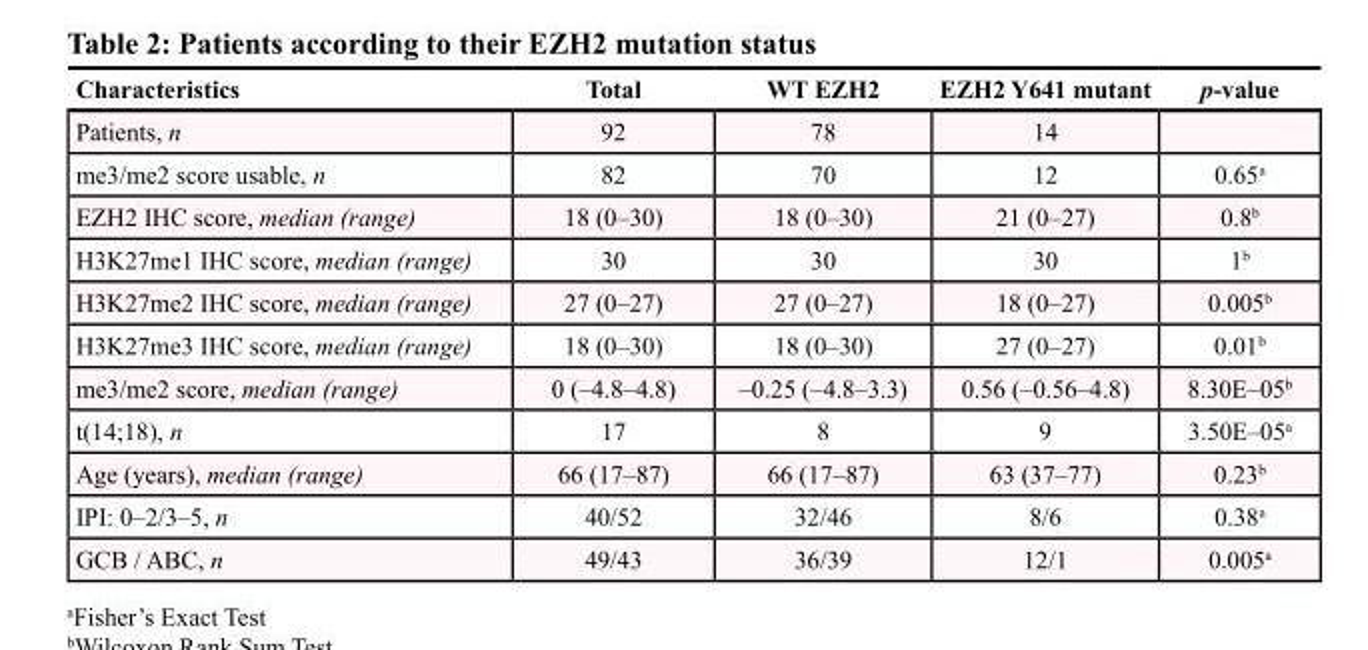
<table><thead><tr><td>Characteristics</td><td>Total</td><td>WT EZH2</td><td>EZH2 Y641 mutant</td><td>p-value</td></tr></thead><tbody><tr><td>Patients, n</td><td>92</td><td>78</td><td>14</td><td></td></tr><tr><td>me3/me2 score usable, n</td><td>82</td><td>70</td><td>12</td><td>0.65<sup>a</sup></td></tr><tr><td>EZH2 IHC score, median (range)</td><td>18 (0–30)</td><td>18 (0–30)</td><td>21 (0–27)</td><td>0.8<sup>b</sup></td></tr><tr><td>H3K27me1 IHC score, median (range)</td><td>30</td><td>30</td><td>30</td><td>1<sup>b</sup></td></tr><tr><td>H3K27me2 IHC score, median (range)</td><td>27 (0–27)</td><td>27 (0–27)</td><td>18 (0–27)</td><td>0.005<sup>b</sup></td></tr><tr><td>H3K27me3 IHC score, median (range)</td><td>18 (0–30)</td><td>18 (0–30)</td><td>27 (0–27)</td><td>0.01<sup>b</sup></td></tr><tr><td>me3/me2 score, median (range)</td><td>0 (–4.8–4.8)</td><td>–0.25 (–4.8–3.3)</td><td>0.56 (–0.56–4.8)</td><td>8.30E–05<sup>b</sup></td></tr><tr><td>t(14;18), n</td><td>17</td><td>8</td><td>9</td><td>3.50E–05<sup>a</sup></td></tr><tr><td>Age (years), median (range)</td><td>66 (17–87)</td><td>66 (17–87)</td><td>63 (37–77)</td><td>0.23<sup>b</sup></td></tr><tr><td>IPI: 0–2/3–5, n</td><td>40/52</td><td>32/46</td><td>8/6</td><td>0.38<sup>a</sup></td></tr><tr><td>GCB / ABC, n</td><td>49/43</td><td>36/39</td><td>12/1</td><td>0.005<sup>a</sup></td></tr></tbody></table>